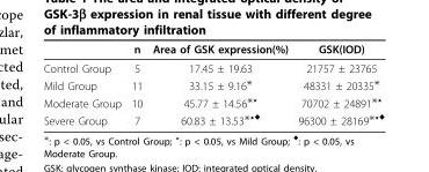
<table><thead><tr><td></td><td>n</td><td>Area of GSK expression(%)</td><td>GSK(IOD)</td></tr></thead><tbody><tr><td>Control Group</td><td>5</td><td>17.45 ± 19.63</td><td>21757 ± 23765</td></tr><tr><td>Mild Group</td><td>11</td><td>33.15 ± 9.16<sup>⋇</sup></td><td>48331 ± 20335<sup>⋇</sup></td></tr><tr><td>Moderate Group</td><td>10</td><td>45.77 ± 14.56<sup>⋇⋆</sup></td><td>70702 ± 24891<sup>⋇⋆</sup></td></tr><tr><td>Severe Group</td><td>7</td><td>60.83 ± 13.53<sup>⋇⋆♦</sup></td><td>96300 ± 28169<sup>⋇⋆♦</sup></td></tr></tbody></table>